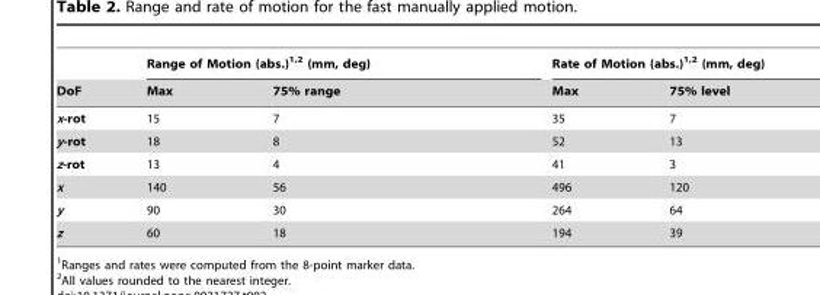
<table><thead><tr><td rowspan="2">DoF</td><td colspan="2">Range of Motion (abs.)<sup>1,2</sup> (mm, deg)</td><td colspan="2">Rate of Motion (abs.)<sup>1,2</sup> (mm, deg)</td></tr><tr><td>Max</td><td>75% range</td><td>Max</td><td>75% level</td></tr></thead><tbody><tr><td>x-rot</td><td>15</td><td>7</td><td>35</td><td>7</td></tr><tr><td>y-rot</td><td>18</td><td>8</td><td>52</td><td>13</td></tr><tr><td>z-rot</td><td>13</td><td>4</td><td>41</td><td>3</td></tr><tr><td>x</td><td>140</td><td>56</td><td>496</td><td>120</td></tr><tr><td>y</td><td>90</td><td>30</td><td>264</td><td>64</td></tr><tr><td>z</td><td>60</td><td>18</td><td>194</td><td>39</td></tr></tbody></table>